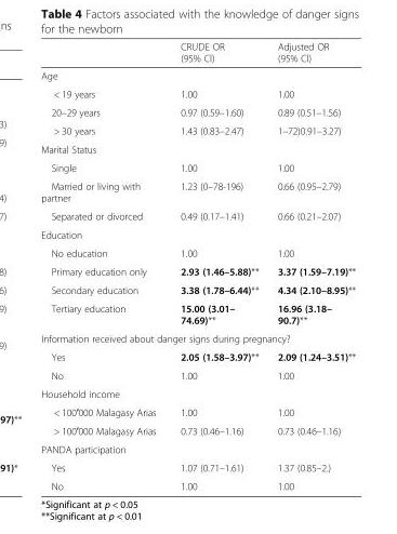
<table><thead><tr><td></td><td>CRUDE OR (95% Cl)</td><td>Adjusted OR (95% Cl)</td></tr></thead><tbody><tr><td colspan="3">Age</td></tr><tr><td>&lt; 19 years</td><td>1.00</td><td>1.00</td></tr><tr><td>20–29 years</td><td>0.97 (0.59–1.60)</td><td>0.89 (0.51–1.56)</td></tr><tr><td>&gt; 30 years</td><td>1.43 (0.83–2.47)</td><td>1–72)0.91–3.27)</td></tr><tr><td colspan="3">Marital Status</td></tr><tr><td>Single</td><td>1.00</td><td>1.00</td></tr><tr><td>Married or living with partner</td><td>1.23 (0–78-196)</td><td>0.66 (0.95–2.79)</td></tr><tr><td>Separated or divorced</td><td>0.49 (0.17–1.41)</td><td>0.66 (0.21–2.07)</td></tr><tr><td colspan="3">Education</td></tr><tr><td>No education</td><td>1.00</td><td>1.00</td></tr><tr><td>Primary education only</td><td>2.93 (1.46–5.88)**</td><td>3.37 (1.59–7.19)**</td></tr><tr><td>Secondary education</td><td>3.38 (1.78–6.44)**</td><td>4.34 (2.10–8.95)**</td></tr><tr><td>Tertiary education</td><td>15.00 (3.01– 74.69)**</td><td>16.96 (3.18– 90.7)**</td></tr><tr><td colspan="3">Information received about danger signs during pregnancy?</td></tr><tr><td>Yes</td><td>2.05 (1.58–3.97)**</td><td>2.09 (1.24–3.51)**</td></tr><tr><td>No</td><td>1.00</td><td>1.00</td></tr><tr><td colspan="3">Household income</td></tr><tr><td>&lt; 100′000 Malagasy Arias</td><td>1.00</td><td>1.00</td></tr><tr><td>&gt; 100′000 Malagasy Arias</td><td>0.73 (0.46–1.16)</td><td>0.73 (0.46–1.16)</td></tr><tr><td colspan="3">PANDA participation</td></tr><tr><td>Yes</td><td>1.07 (0.71–1.61)</td><td>1.37 (0.85–2.)</td></tr><tr><td>No</td><td>1.00</td><td>1.00</td></tr></tbody></table>